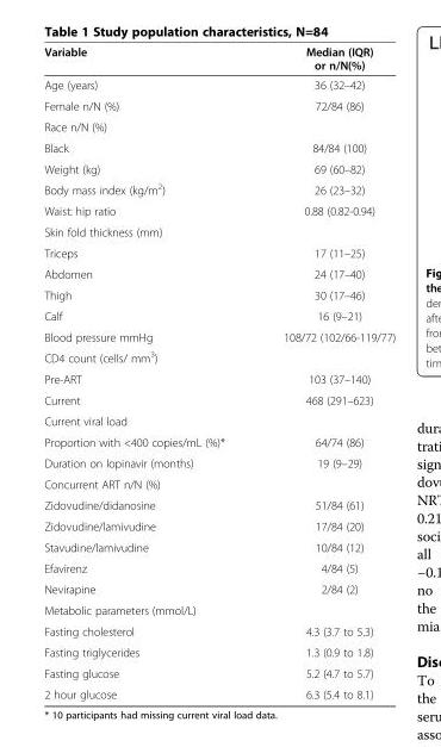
<table><thead><tr><td>Variable</td><td>Median (IQR) or n/N(%)</td></tr></thead><tbody><tr><td>Age (years)</td><td>36 (32–42)</td></tr><tr><td>Female n/N (%)</td><td>72/84 (86)</td></tr><tr><td colspan="2">Race n/N (%)</td></tr><tr><td>Black</td><td>84/84 (100)</td></tr><tr><td>Weight (kg)</td><td>69 (60–82)</td></tr><tr><td>Body mass index (kg/m<sup>2</sup>)</td><td>26 (23–32)</td></tr><tr><td>Waist: hip ratio</td><td>0.88 (0.82-0.94)</td></tr><tr><td colspan="2">Skin fold thickness (mm)</td></tr><tr><td>Triceps</td><td>17 (11–25)</td></tr><tr><td>Abdomen</td><td>24 (17–40)</td></tr><tr><td>Thigh</td><td>30 (17–46)</td></tr><tr><td>Calf</td><td>16 (9–21)</td></tr><tr><td>Blood pressure mmHg</td><td>108/72 (102/66-119/77)</td></tr><tr><td colspan="2">CD4 count (cells/ mm<sup>3</sup>)</td></tr><tr><td>Pre-ART</td><td>103 (37–140)</td></tr><tr><td>Current</td><td>468 (291–623)</td></tr><tr><td colspan="2">Current viral load</td></tr><tr><td>Proportion with &lt;400 copies/mL (%)*</td><td>64/74 (86)</td></tr><tr><td>Duration on lopinavir (months)</td><td>19 (9–29)</td></tr><tr><td colspan="2">Concurrent ART n/N (%)</td></tr><tr><td>Zidovudine/didanosine</td><td>51/84 (61)</td></tr><tr><td>Zidovudine/lamivudine</td><td>17/84 (20)</td></tr><tr><td>Stavudine/lamivudine</td><td>10/84 (12)</td></tr><tr><td>Efavirenz</td><td>4/84 (5)</td></tr><tr><td>Nevirapine</td><td>2/84 (2)</td></tr><tr><td colspan="2">Metabolic parameters (mmol/L)</td></tr><tr><td>Fasting cholesterol</td><td>4.3 (3.7 to 5.3)</td></tr><tr><td>Fasting triglycerides</td><td>1.3 (0.9 to 1.8)</td></tr><tr><td>Fasting glucose</td><td>5.2 (4.7 to 5.7)</td></tr><tr><td>2 hour glucose</td><td>6.3 (5.4 to 8.1)</td></tr></tbody></table>